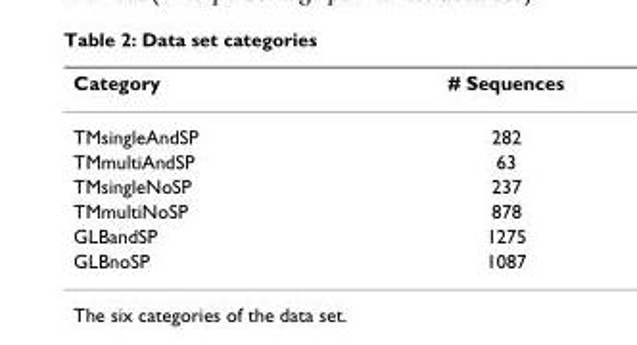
<table><thead><tr><td>Category</td><td># Sequences</td></tr></thead><tbody><tr><td>TMsingleAndSP</td><td>282</td></tr><tr><td>TMmultiAndSP</td><td>63</td></tr><tr><td>TMsingleNoSP</td><td>237</td></tr><tr><td>TMmultiNoSP</td><td>878</td></tr><tr><td>GLBandSP</td><td>1275</td></tr><tr><td>GLBnoSP</td><td>1087</td></tr></tbody></table>